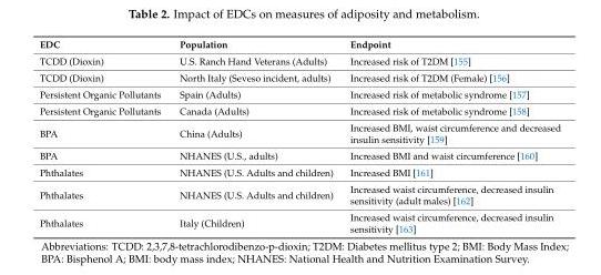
<table><thead><tr><td>EDC</td><td>Population</td><td>Endpoint</td></tr></thead><tbody><tr><td>TCDD (Dioxin)</td><td>U.S. Ranch Hand Veterans (Adults)</td><td>Increased risk of T2DM [155]</td></tr><tr><td>TCDD (Dioxin)</td><td>North Italy (Seveso incident, adults)</td><td>Increased risk of T2DM (Female) [156]</td></tr><tr><td>Persistent Organic Pollutants</td><td>Spain (Adults)</td><td>Increased risk of metabolic syndrome [157]</td></tr><tr><td>Persistent Organic Pollutants</td><td>Canada (Adults)</td><td>Increased risk of metabolic syndrome [158]</td></tr><tr><td>BPA</td><td>China (Adults)</td><td>Increased BMI, waist circumference and decreased insulin sensitivity [159]</td></tr><tr><td>BPA</td><td>NHANES (U.S., adults)</td><td>Increased BMI and waist circumference [160]</td></tr><tr><td>Phthalates</td><td>NHANES (U.S. Adults and children)</td><td>Increased BMI [161]</td></tr><tr><td>Phthalates</td><td>NHANES (U.S. Adults and children)</td><td>Increased waist circumference, decreased insulin sensitivity (adult males) [162]</td></tr><tr><td>Phthalates</td><td>Italy (Children)</td><td>Increased waist circumference, decreased insulin sensitivity [163]</td></tr></tbody></table>